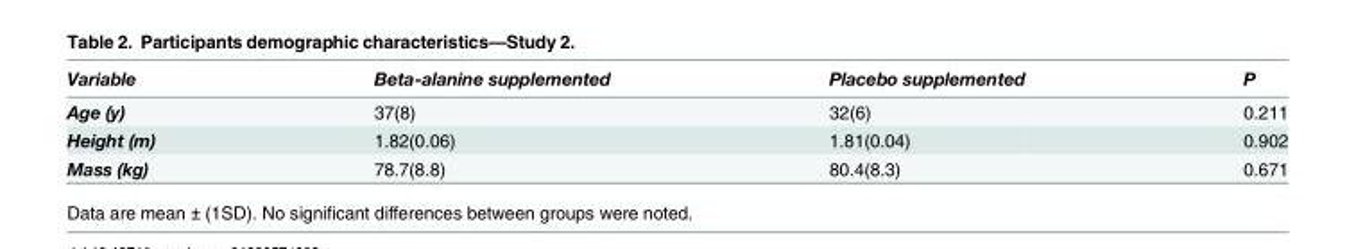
<table><thead><tr><td>Variable</td><td>Beta-alanine supplemented</td><td>Placebo supplemented</td><td>P</td></tr></thead><tbody><tr><td>Age (y)</td><td>37(8)</td><td>32(6)</td><td>0.211</td></tr><tr><td>Height (m)</td><td>1.82(0.06)</td><td>1.81(0.04)</td><td>0.902</td></tr><tr><td>Mass (kg)</td><td>78.7(8.8)</td><td>80.4(8.3)</td><td>0.671</td></tr></tbody></table>